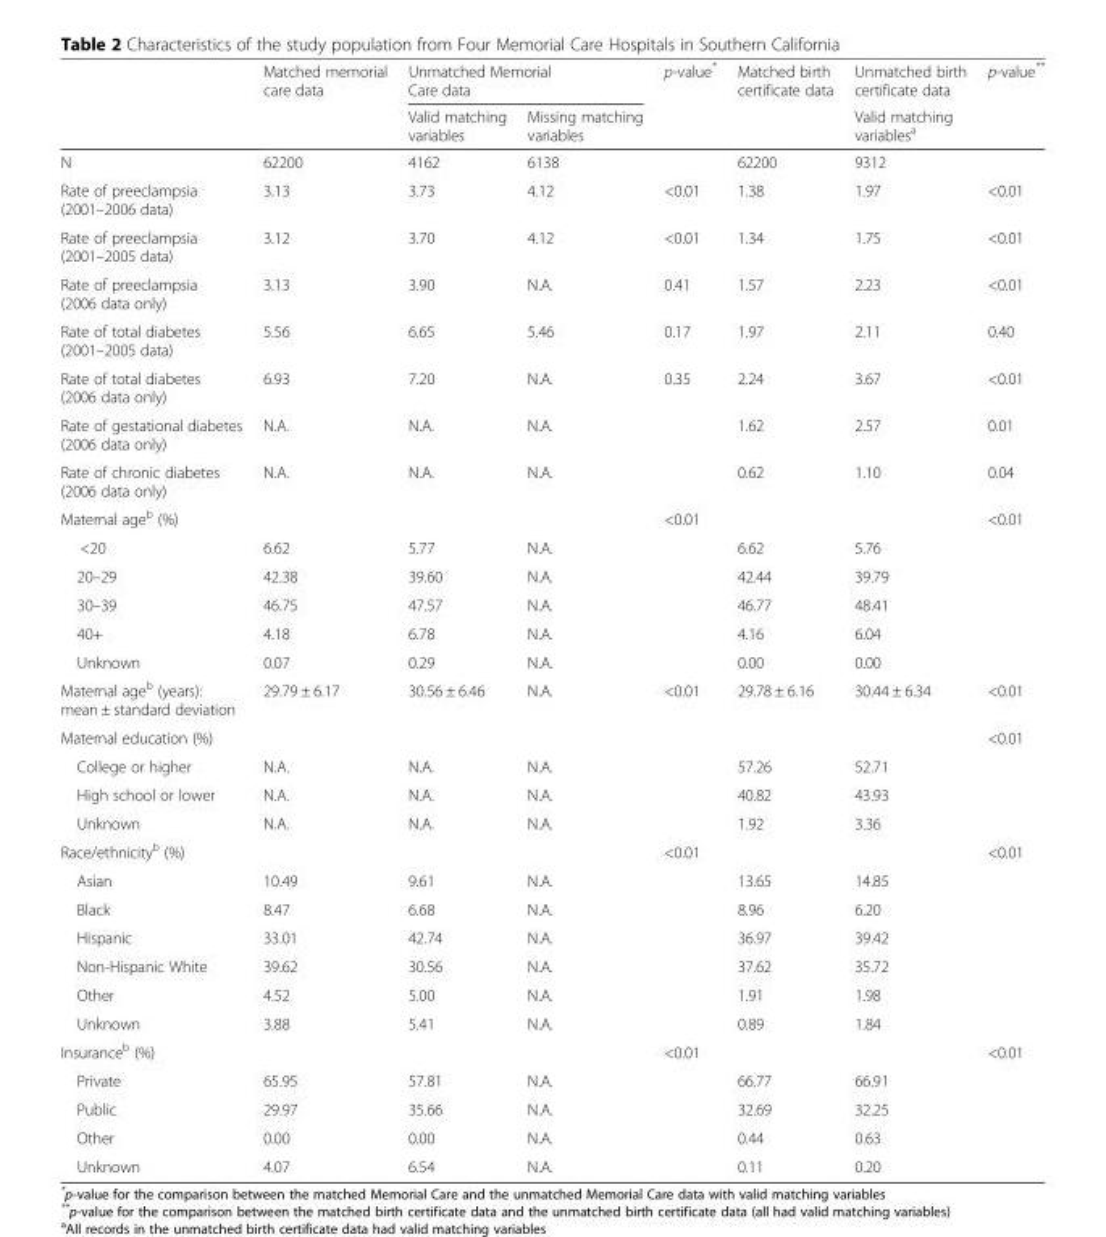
<table><thead><tr><td rowspan="2"></td><td rowspan="2">Matched memorial care data</td><td colspan="2">Unmatched Memorial Care data</td><td rowspan="2">p-value*</td><td rowspan="2">Matched birth certificate data</td><td rowspan="2">Unmatched birth certificate data Valid matching variables<sup>a</sup></td><td rowspan="2">p-value**</td></tr><tr><td>Valid matching variables</td><td>Missing matching variables</td></tr></thead><tbody><tr><td>N</td><td>62200</td><td>4162</td><td>6138</td><td></td><td>62200</td><td>9312</td><td></td></tr><tr><td>Rate of preeclampsia (2001–2006 data)</td><td>3.13</td><td>3.73</td><td>4.12</td><td>&lt;0.01</td><td>1.38</td><td>1.97</td><td>&lt;0.01</td></tr><tr><td>Rate of preeclampsia (2001–2005 data)</td><td>3.12</td><td>3.70</td><td>4.12</td><td>&lt;0.01</td><td>1.34</td><td>1.75</td><td>&lt;0.01</td></tr><tr><td>Rate of preeclampsia (2006 data only)</td><td>3.13</td><td>3.90</td><td>N.A.</td><td>0.41</td><td>1.57</td><td>2.23</td><td>&lt;0.01</td></tr><tr><td>Rate of total diabetes (2001–2005 data)</td><td>5.56</td><td>6.65</td><td>5.46</td><td>0.17</td><td>1.97</td><td>2.11</td><td>0.40</td></tr><tr><td>Rate of total diabetes (2006 data only)</td><td>6.93</td><td>7.20</td><td>N.A.</td><td>0.35</td><td>2.24</td><td>3.67</td><td>&lt;0.01</td></tr><tr><td>Rate of gestational diabetes (2006 data only)</td><td>N.A.</td><td>N.A.</td><td>N.A.</td><td></td><td>1.62</td><td>2.57</td><td>0.01</td></tr><tr><td>Rate of chronic diabetes (2006 data only)</td><td>N.A.</td><td>N.A.</td><td>N.A.</td><td></td><td>0.62</td><td>1.10</td><td>0.04</td></tr><tr><td>Maternal age<sup>b</sup> (%)</td><td></td><td></td><td></td><td>&lt;0.01</td><td></td><td></td><td>&lt;0.01</td></tr><tr><td>&lt;20</td><td>6.62</td><td>5.77</td><td>N.A.</td><td></td><td>6.62</td><td>5.76</td><td></td></tr><tr><td>20–29</td><td>42.38</td><td>39.60</td><td>N.A.</td><td></td><td>42.44</td><td>39.79</td><td></td></tr><tr><td>30–39</td><td>46.75</td><td>47.57</td><td>N.A.</td><td></td><td>46.77</td><td>48.41</td><td></td></tr><tr><td>40+</td><td>4.18</td><td>6.78</td><td>N.A.</td><td></td><td>4.16</td><td>6.04</td><td></td></tr><tr><td>Unknown</td><td>0.07</td><td>0.29</td><td>N.A.</td><td></td><td>0.00</td><td>0.00</td><td></td></tr><tr><td>Maternal age<sup>b</sup> (years): mean ± standard deviation</td><td>29.79 ± 6.17</td><td>30.56 ± 6.46</td><td>N.A.</td><td>&lt;0.01</td><td>29.78 ± 6.16</td><td>30.44 ± 6.34</td><td>&lt;0.01</td></tr><tr><td>Maternal education (%)</td><td></td><td></td><td></td><td></td><td></td><td></td><td>&lt;0.01</td></tr><tr><td>College or higher</td><td>N.A.</td><td>N.A.</td><td>N.A.</td><td></td><td>57.26</td><td>52.71</td><td></td></tr><tr><td>High school or lower</td><td>N.A.</td><td>N.A.</td><td>N.A.</td><td></td><td>40.82</td><td>43.93</td><td></td></tr><tr><td>Unknown</td><td>N.A.</td><td>N.A.</td><td>N.A.</td><td></td><td>1.92</td><td>3.36</td><td></td></tr><tr><td>Race/ethnicity<sup>b</sup> (%)</td><td></td><td></td><td></td><td>&lt;0.01</td><td></td><td></td><td>&lt;0.01</td></tr><tr><td>Asian</td><td>10.49</td><td>9.61</td><td>N.A.</td><td></td><td>13.65</td><td>14.85</td><td></td></tr><tr><td>Black</td><td>8.47</td><td>6.68</td><td>N.A.</td><td></td><td>8.96</td><td>6.20</td><td></td></tr><tr><td>Hispanic</td><td>33.01</td><td>42.74</td><td>N.A.</td><td></td><td>36.97</td><td>39.42</td><td></td></tr><tr><td>Non-Hispanic White</td><td>39.62</td><td>30.56</td><td>N.A.</td><td></td><td>37.62</td><td>35.72</td><td></td></tr><tr><td>Other</td><td>4.52</td><td>5.00</td><td>N.A.</td><td></td><td>1.91</td><td>1.98</td><td></td></tr><tr><td>Unknown</td><td>3.88</td><td>5.41</td><td>N.A.</td><td></td><td>0.89</td><td>1.84</td><td></td></tr><tr><td>Insurance<sup>b</sup> (%)</td><td></td><td></td><td></td><td>&lt;0.01</td><td></td><td></td><td>&lt;0.01</td></tr><tr><td>Private</td><td>65.95</td><td>57.81</td><td>N.A.</td><td></td><td>66.77</td><td>66.91</td><td></td></tr><tr><td>Public</td><td>29.97</td><td>35.66</td><td>N.A.</td><td></td><td>32.69</td><td>32.25</td><td></td></tr><tr><td>Other</td><td>0.00</td><td>0.00</td><td>N.A.</td><td></td><td>0.44</td><td>0.63</td><td></td></tr><tr><td>Unknown</td><td>4.07</td><td>6.54</td><td>N.A.</td><td></td><td>0.11</td><td>0.20</td><td></td></tr></tbody></table>